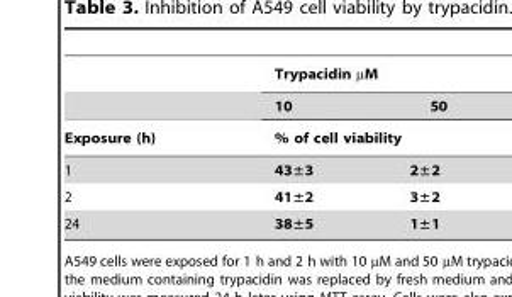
<table><thead><tr><td rowspan="3">Exposure (h)</td><td colspan="2">Trypacidin µM</td></tr><tr><td>10</td><td>50</td></tr><tr><td colspan="2">% of cell viability</td></tr></thead><tbody><tr><td>1</td><td>43±3</td><td>2±2</td></tr><tr><td>2</td><td>41±2</td><td>3±2</td></tr><tr><td>24</td><td>38±5</td><td>1±1</td></tr></tbody></table>